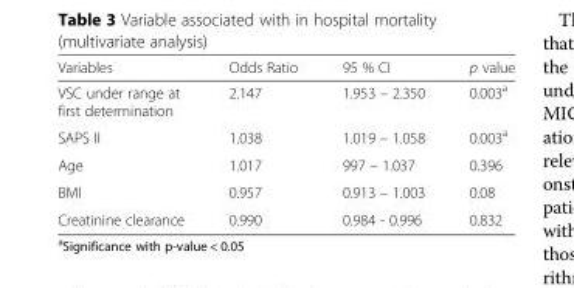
<table><thead><tr><td>Variables</td><td>Odds Ratio</td><td>95 % CI</td><td>p value</td></tr></thead><tbody><tr><td>VSC under range at first determination</td><td>2.147</td><td>1.953 – 2.350</td><td>0.003<sup>a</sup></td></tr><tr><td>SAPS II</td><td>1.038</td><td>1.019 – 1.058</td><td>0.003<sup>a</sup></td></tr><tr><td>Age</td><td>1.017</td><td>997 – 1.037</td><td>0.396</td></tr><tr><td>BMI</td><td>0.957</td><td>0.913 – 1.003</td><td>0.08</td></tr><tr><td>Creatinine clearance</td><td>0.990</td><td>0.984 - 0.996</td><td>0.832</td></tr></tbody></table>